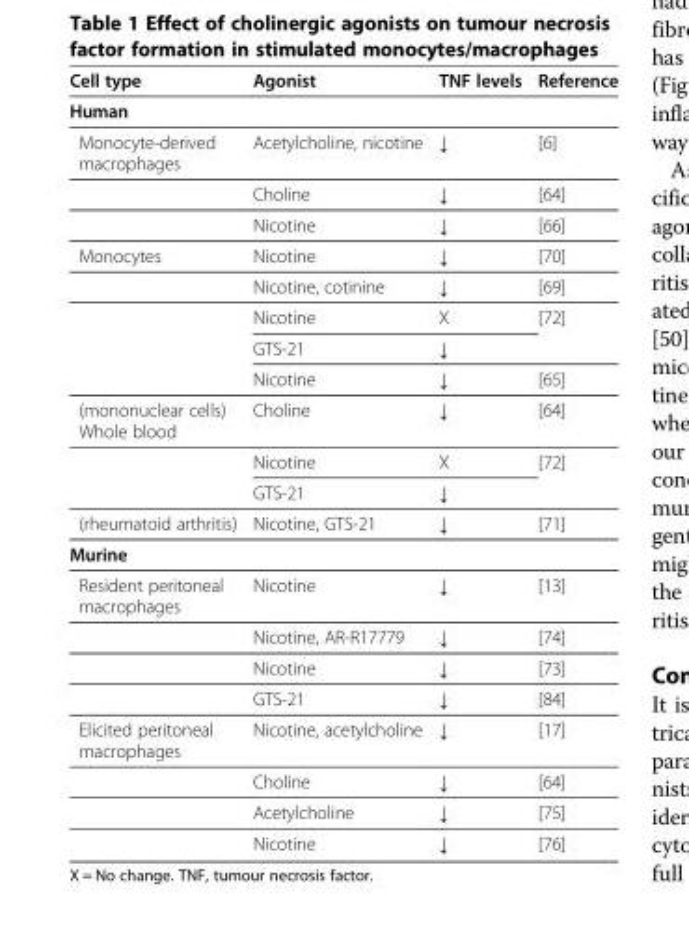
<table><thead><tr><td>Cell type</td><td>Agonist</td><td>TNF levels</td><td>Reference</td></tr></thead><tbody><tr><td colspan="4">Human</td></tr><tr><td rowspan="3">Monocyte-derived macrophages</td><td>Acetylcholine, nicotine</td><td>↓</td><td>[6]</td></tr><tr><td>Choline</td><td>↓</td><td>[64]</td></tr><tr><td>Nicotine</td><td>↓</td><td>[66]</td></tr><tr><td rowspan="5">Monocytes</td><td>Nicotine</td><td>↓</td><td>[70]</td></tr><tr><td>Nicotine, cotinine</td><td>↓</td><td>[69]</td></tr><tr><td>Nicotine</td><td>X</td><td rowspan="2">[72]</td></tr><tr><td>GTS-21</td><td>↓</td></tr><tr><td>Nicotine</td><td>↓</td><td>[65]</td></tr><tr><td rowspan="3">(mononuclear cells) Whole blood</td><td>Choline</td><td>↓</td><td>[64]</td></tr><tr><td>Nicotine</td><td>X</td><td rowspan="2">[72]</td></tr><tr><td>GTS-21</td><td>↓</td></tr><tr><td>(rheumatoid arthritis)</td><td>Nicotine, GTS-21</td><td>↓</td><td>[71]</td></tr><tr><td colspan="4">Murine</td></tr><tr><td rowspan="4">Resident peritoneal macrophages</td><td>Nicotine</td><td>↓</td><td>[13]</td></tr><tr><td>Nicotine, AR-R17779</td><td>↓</td><td>[74]</td></tr><tr><td>Nicotine</td><td>↓</td><td>[73]</td></tr><tr><td>GTS-21</td><td>↓</td><td>[84]</td></tr><tr><td rowspan="4">Elicited peritoneal macrophages</td><td>Nicotine, acetylcholine</td><td>↓</td><td>[17]</td></tr><tr><td>Choline</td><td>↓</td><td>[64]</td></tr><tr><td>Acetylcholine</td><td>↓</td><td>[75]</td></tr><tr><td>Nicotine</td><td>↓</td><td>[76]</td></tr></tbody></table>